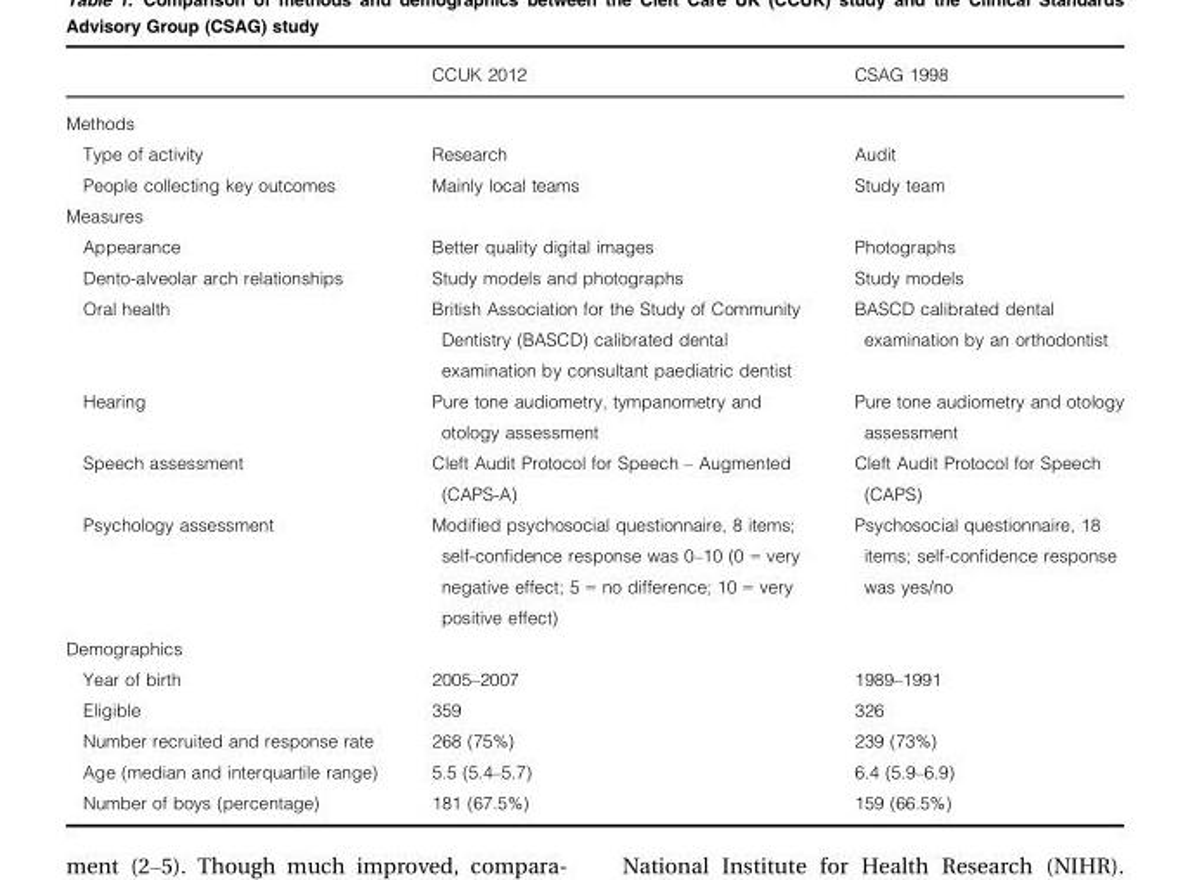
<table><thead><tr><td></td><td>CCUK 2012</td><td>CSAG 1998</td></tr></thead><tbody><tr><td colspan="3">Methods</td></tr><tr><td>Type of activity</td><td>Research</td><td>Audit</td></tr><tr><td>People collecting key outcomes</td><td>Mainly local teams</td><td>Study team</td></tr><tr><td colspan="3">Measures</td></tr><tr><td>Appearance</td><td>Better quality digital images</td><td>Photographs</td></tr><tr><td>Dento-alveolar arch relationships</td><td>Study models and photographs</td><td>Study models</td></tr><tr><td>Oral health</td><td>British Association for the Study of Community Dentistry (BASCD) calibrated dental examination by consultant paediatric dentist</td><td>BASCD calibrated dental examination by an orthodontist</td></tr><tr><td>Hearing</td><td>Pure tone audiometry, tympanometry and otology assessment</td><td>Pure tone audiometry and otology assessment</td></tr><tr><td>Speech assessment</td><td>Cleft Audit Protocol for Speech – Augmented (CAPS-A)</td><td>Cleft Audit Protocol for Speech (CAPS)</td></tr><tr><td>Psychology assessment</td><td>Modified psychosocial questionnaire, 8 items; self-confidence response was 0–10 (0 = very negative effect; 5 = no difference; 10 = very positive effect)</td><td>Psychosocial questionnaire, 18 items; self-confidence response was yes/no</td></tr><tr><td colspan="3">Demographics</td></tr><tr><td>Year of birth</td><td>2005–2007</td><td>1989–1991</td></tr><tr><td>Eligible</td><td>359</td><td>326</td></tr><tr><td>Number recruited and response rate</td><td>268 (75%)</td><td>239 (73%)</td></tr><tr><td>Age (median and interquartile range)</td><td>5.5 (5.4–5.7)</td><td>6.4 (5.9–6.9)</td></tr><tr><td>Number of boys (percentage)</td><td>181 (67.5%)</td><td>159 (66.5%)</td></tr></tbody></table>